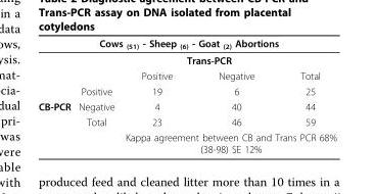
<table><thead><tr><td colspan="5">Cows <sub>(51)</sub> - Sheep <sub>(6)</sub> - Goat <sub>(2)</sub> Abortions</td></tr><tr><td rowspan="2"></td><td colspan="4">Trans-PCR</td></tr><tr><td></td><td>Positive</td><td>Negative</td><td>Total</td></tr></thead><tbody><tr><td></td><td>Positive</td><td>19</td><td>6</td><td>25</td></tr><tr><td rowspan="3">CB-PCR</td><td>Negative</td><td>4</td><td>40</td><td>44</td></tr><tr><td>Total</td><td>23</td><td>46</td><td>59</td></tr><tr><td></td><td colspan="3">Kappa agreement between CB and Trans PCR 68% (38-98) SE 12%</td></tr></tbody></table>